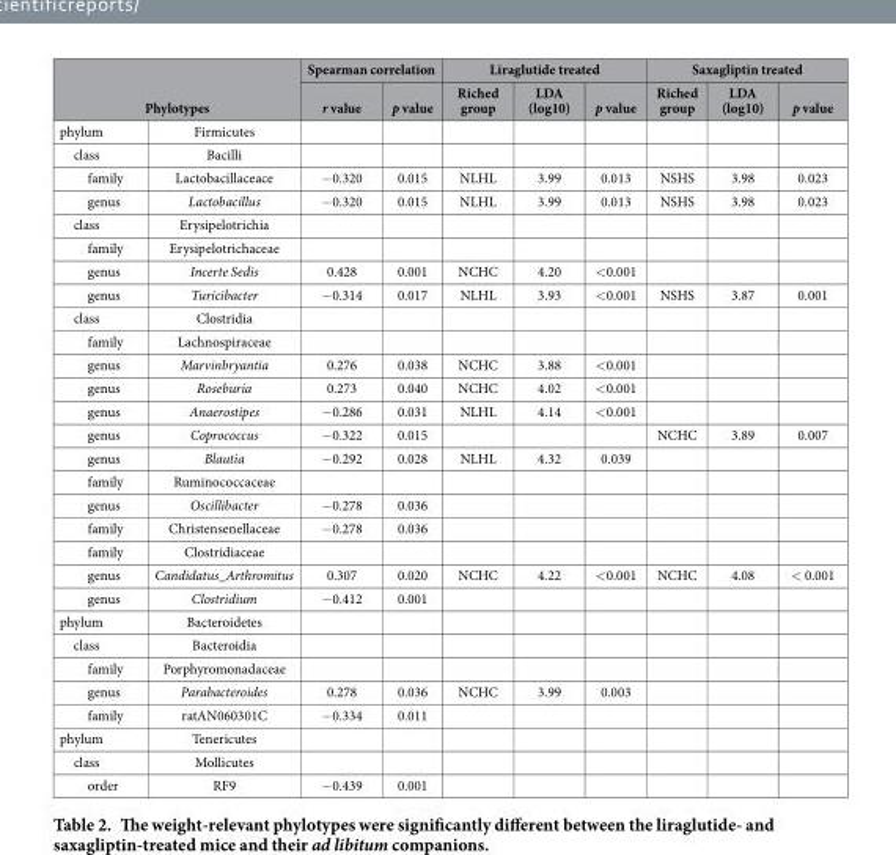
<table><thead><tr><td></td><td></td><td colspan="2">Spearman correlation</td><td colspan="3">Liraglutide treated</td><td colspan="3">Saxagliptin treated</td></tr><tr><td colspan="2">Phylotypes</td><td>r value</td><td>p value</td><td>Riched group</td><td>LDA (log10)</td><td>p value</td><td>Riched group</td><td>LDA (log10)</td><td>p value</td></tr></thead><tbody><tr><td>phylum</td><td>Firmicutes</td><td></td><td></td><td></td><td></td><td></td><td></td><td></td><td></td></tr><tr><td>class</td><td>Bacilli</td><td></td><td></td><td></td><td></td><td></td><td></td><td></td><td></td></tr><tr><td>family</td><td>Lactobacillaceace</td><td>− 0.320</td><td>0.015</td><td>NLHL</td><td>3.99</td><td>0.013</td><td>NSHS</td><td>3.98</td><td>0.023</td></tr><tr><td>genus</td><td>Lactobacillus</td><td>− 0.320</td><td>0.015</td><td>NLHL</td><td>3.99</td><td>0.013</td><td>NSHS</td><td>3.98</td><td>0.023</td></tr><tr><td>class</td><td>Erysipelotrichia</td><td></td><td></td><td></td><td></td><td></td><td></td><td></td><td></td></tr><tr><td>family</td><td>Erysipelotrichaceae</td><td></td><td></td><td></td><td></td><td></td><td></td><td></td><td></td></tr><tr><td>genus</td><td>Incerte Sedis</td><td>0.428</td><td>0.001</td><td>NCHC</td><td>4.20</td><td>&lt; 0.001</td><td></td><td></td><td></td></tr><tr><td>genus</td><td>Turicibacter</td><td>− 0.314</td><td>0.017</td><td>NLHL</td><td>3.93</td><td>&lt; 0.001</td><td>NSHS</td><td>3.87</td><td>0.001</td></tr><tr><td>class</td><td>Clostridia</td><td></td><td></td><td></td><td></td><td></td><td></td><td></td><td></td></tr><tr><td>family</td><td>Lachnospiraceae</td><td></td><td></td><td></td><td></td><td></td><td></td><td></td><td></td></tr><tr><td>genus</td><td>Marvinbryantia</td><td>0.276</td><td>0.038</td><td>NCHC</td><td>3.88</td><td>&lt; 0.001</td><td></td><td></td><td></td></tr><tr><td>genus</td><td>Roseburia</td><td>0.273</td><td>0.040</td><td>NCHC</td><td>4.02</td><td>&lt; 0.001</td><td></td><td></td><td></td></tr><tr><td>genus</td><td>Anaerostipes</td><td>− 0.286</td><td>0.031</td><td>NLHL</td><td>4.14</td><td>&lt; 0.001</td><td></td><td></td><td></td></tr><tr><td>genus</td><td>Coprococcus</td><td>− 0.322</td><td>0.015</td><td></td><td></td><td></td><td>NCHC</td><td>3.89</td><td>0.007</td></tr><tr><td>genus</td><td>Blautia</td><td>− 0.292</td><td>0.028</td><td>NLHL</td><td>4.32</td><td>0.039</td><td></td><td></td><td></td></tr><tr><td>family</td><td>Ruminococcaceae</td><td></td><td></td><td></td><td></td><td></td><td></td><td></td><td></td></tr><tr><td>genus</td><td>Oscillibacter</td><td>− 0.278</td><td>0.036</td><td></td><td></td><td></td><td></td><td></td><td></td></tr><tr><td>family</td><td>Christensenellaceae</td><td>− 0.278</td><td>0.036</td><td></td><td></td><td></td><td></td><td></td><td></td></tr><tr><td>family</td><td>Clostridiaceae</td><td></td><td></td><td></td><td></td><td></td><td></td><td></td><td></td></tr><tr><td>genus</td><td>Candidatus_Arthromitus</td><td>0.307</td><td>0.020</td><td>NCHC</td><td>4.22</td><td>&lt; 0.001</td><td>NCHC</td><td>4.08</td><td>&lt; 0.001</td></tr><tr><td>genus</td><td>Clostridium</td><td>− 0.412</td><td>0.001</td><td></td><td></td><td></td><td></td><td></td><td></td></tr><tr><td>phylum</td><td>Bacteroidetes</td><td></td><td></td><td></td><td></td><td></td><td></td><td></td><td></td></tr><tr><td>class</td><td>Bacteroidia</td><td></td><td></td><td></td><td></td><td></td><td></td><td></td><td></td></tr><tr><td>family</td><td>Porphyromonadaceae</td><td></td><td></td><td></td><td></td><td></td><td></td><td></td><td></td></tr><tr><td>genus</td><td>Parabacteroides</td><td>0.278</td><td>0.036</td><td>NCHC</td><td>3.99</td><td>0.003</td><td></td><td></td><td></td></tr><tr><td>family</td><td>ratAN060301C</td><td>− 0.334</td><td>0.011</td><td></td><td></td><td></td><td></td><td></td><td></td></tr><tr><td>phylum</td><td>Tenericutes</td><td></td><td></td><td></td><td></td><td></td><td></td><td></td><td></td></tr><tr><td>class</td><td>Mollicutes</td><td></td><td></td><td></td><td></td><td></td><td></td><td></td><td></td></tr><tr><td>order</td><td>RF9</td><td>− 0.439</td><td>0.001</td><td></td><td></td><td></td><td></td><td></td><td></td></tr></tbody></table>